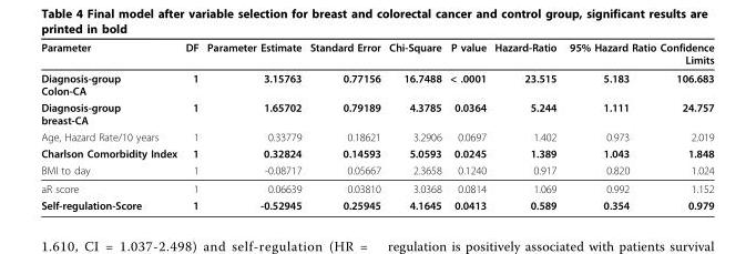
<table><thead><tr><td rowspan="2">Parameter Diagnosis-group Colon-CA</td><td rowspan="2">DF 1</td><td rowspan="2">Parameter Estimate 3.15763</td><td rowspan="2">Standard Error 0.77156</td><td rowspan="2">Chi-Square 16.7488</td><td rowspan="2">P value &lt; .0001</td><td rowspan="2">Hazard-Ratio 23.515</td><td colspan="2">95% Hazard Ratio Confidence Limits</td></tr><tr><td>5.183</td><td>106.683</td></tr></thead><tbody><tr><td>Diagnosis-group breast-CA</td><td>1</td><td>1.65702</td><td>0.79189</td><td>4.3785</td><td>0.0364</td><td>5.244</td><td>1.111</td><td>24.757</td></tr><tr><td>Age, Hazard Rate/10 years</td><td>1</td><td>0.33779</td><td>0.18621</td><td>3.2906</td><td>0.0697</td><td>1.402</td><td>0.973</td><td>2.019</td></tr><tr><td>Charlson Comorbidity Index</td><td>1</td><td>0.32824</td><td>0.14593</td><td>5.0593</td><td>0.0245</td><td>1.389</td><td>1.043</td><td>1.848</td></tr><tr><td>BMI to day</td><td>1</td><td>-0.08717</td><td>0.05667</td><td>2.3658</td><td>0.1240</td><td>0.917</td><td>0.820</td><td>1.024</td></tr><tr><td>aR score</td><td>1</td><td>0.06639</td><td>0.03810</td><td>3.0368</td><td>0.0814</td><td>1.069</td><td>0.992</td><td>1.152</td></tr><tr><td>Self-regulation-Score</td><td>1</td><td>-0.52945</td><td>0.25945</td><td>4.1645</td><td>0.0413</td><td>0.589</td><td>0.354</td><td>0.979</td></tr></tbody></table>